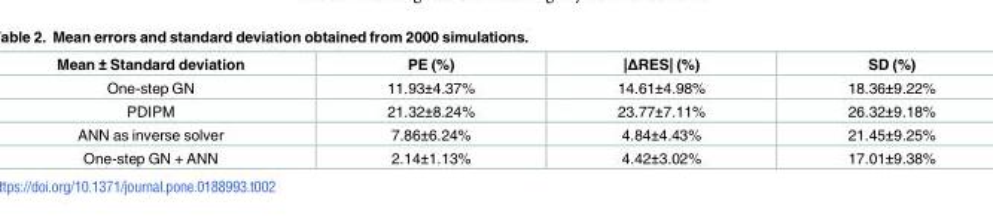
<table><thead><tr><td>Mean ± Standard deviation</td><td>PE (%)</td><td>|ΔRES| (%)</td><td>SD (%)</td></tr></thead><tbody><tr><td>One-step GN</td><td>11.93±4.37%</td><td>14.61±4.98%</td><td>18.36±9.22%</td></tr><tr><td>PDIPM</td><td>21.32±8.24%</td><td>23.77±7.11%</td><td>26.32±9.18%</td></tr><tr><td>ANN as inverse solver</td><td>7.86±6.24%</td><td>4.84±4.43%</td><td>21.45±9.25%</td></tr><tr><td>One-step GN + ANN</td><td>2.14±1.13%</td><td>4.42±3.02%</td><td>17.01±9.38%</td></tr></tbody></table>